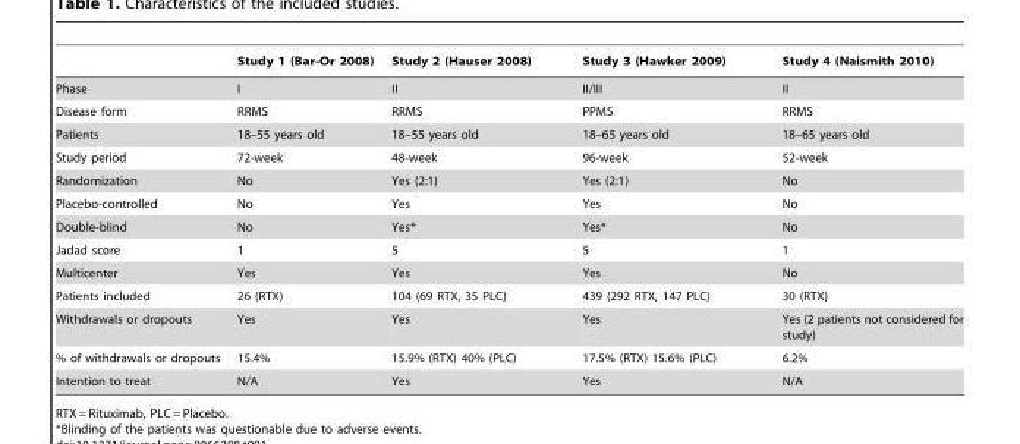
<table><thead><tr><td></td><td>Study 1 (Bar-Or 2008)</td><td>Study 2 (Hauser 2008)</td><td>Study 3 (Hawker 2009)</td><td>Study 4 (Naismith 2010)</td></tr></thead><tbody><tr><td>Phase</td><td>I</td><td>II</td><td>II/III</td><td>II</td></tr><tr><td>Disease form</td><td>RRMS</td><td>RRMS</td><td>PPMS</td><td>RRMS</td></tr><tr><td>Patients</td><td>18–55 years old</td><td>18–55 years old</td><td>18–65 years old</td><td>18–65 years old</td></tr><tr><td>Study period</td><td>72-week</td><td>48-week</td><td>96-week</td><td>52-week</td></tr><tr><td>Randomization</td><td>No</td><td>Yes (2:1)</td><td>Yes (2:1)</td><td>No</td></tr><tr><td>Placebo-controlled</td><td>No</td><td>Yes</td><td>Yes</td><td>No</td></tr><tr><td>Double-blind</td><td>No</td><td>Yes*</td><td>Yes*</td><td>No</td></tr><tr><td>Jadad score</td><td>1</td><td>5</td><td>5</td><td>1</td></tr><tr><td>Multicenter</td><td>Yes</td><td>Yes</td><td>Yes</td><td>No</td></tr><tr><td>Patients included</td><td>26 (RTX)</td><td>104 (69 RTX, 35 PLC)</td><td>439 (292 RTX, 147 PLC)</td><td>30 (RTX)</td></tr><tr><td>Withdrawals or dropouts</td><td>Yes</td><td>Yes</td><td>Yes</td><td>Yes (2 patients not considered for study)</td></tr><tr><td>% of withdrawals or dropouts</td><td>15.4%</td><td>15.9% (RTX) 40% (PLC)</td><td>17.5% (RTX) 15.6% (PLC)</td><td>6.2%</td></tr><tr><td>Intention to treat</td><td>N/A</td><td>Yes</td><td>Yes</td><td>N/A</td></tr></tbody></table>